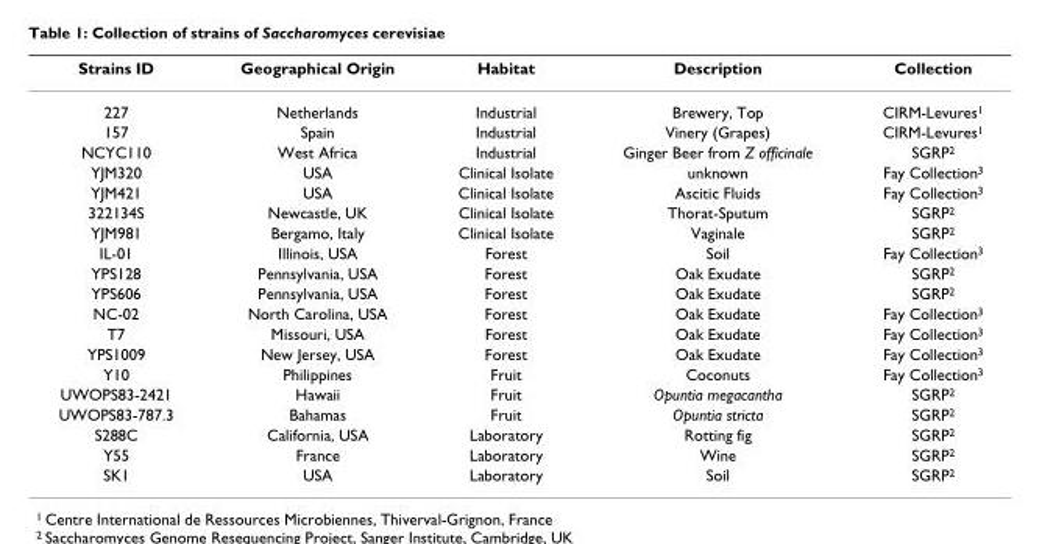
<table><thead><tr><td>Strains ID</td><td>Geographical Origin</td><td>Habitat</td><td>Description</td><td>Collection</td></tr></thead><tbody><tr><td>227</td><td>Netherlands</td><td>Industrial</td><td>Brewery, Top</td><td>CIRM-Levures<sup>1</sup></td></tr><tr><td>157</td><td>Spain</td><td>Industrial</td><td>Vinery (Grapes)</td><td>CIRM-Levures<sup>1</sup></td></tr><tr><td>NCYC110</td><td>West Africa</td><td>Industrial</td><td>Ginger Beer from Z officinale</td><td>SGRP<sup>2</sup></td></tr><tr><td>YJM320</td><td>USA</td><td>Clinical Isolate</td><td>unknown</td><td>Fay Collection<sup>3</sup></td></tr><tr><td>YJM421</td><td>USA</td><td>Clinical Isolate</td><td>Ascitic Fluids</td><td>Fay Collection<sup>3</sup></td></tr><tr><td>322134S</td><td>Newcastle, UK</td><td>Clinical Isolate</td><td>Thorat-Sputum</td><td>SGRP<sup>2</sup></td></tr><tr><td>YJM981</td><td>Bergamo, Italy</td><td>Clinical Isolate</td><td>Vaginale</td><td>SGRP<sup>2</sup></td></tr><tr><td>IL-01</td><td>Illinois, USA</td><td>Forest</td><td>Soil</td><td>Fay Collection<sup>3</sup></td></tr><tr><td>YPS128</td><td>Pennsylvania, USA</td><td>Forest</td><td>Oak Exudate</td><td>SGRP<sup>2</sup></td></tr><tr><td>YPS606</td><td>Pennsylvania, USA</td><td>Forest</td><td>Oak Exudate</td><td>SGRP<sup>2</sup></td></tr><tr><td>NC-02</td><td>North Carolina, USA</td><td>Forest</td><td>Oak Exudate</td><td>Fay Collection<sup>3</sup></td></tr><tr><td>T7</td><td>Missouri, USA</td><td>Forest</td><td>Oak Exudate</td><td>Fay Collection<sup>3</sup></td></tr><tr><td>YPS1009</td><td>New Jersey, USA</td><td>Forest</td><td>Oak Exudate</td><td>Fay Collection<sup>3</sup></td></tr><tr><td>Y10</td><td>Philippines</td><td>Fruit</td><td>Coconuts</td><td>Fay Collection<sup>3</sup></td></tr><tr><td>UWOPS83-2421</td><td>Hawaii</td><td>Fruit</td><td>Opuntia megacantha</td><td>SGRP<sup>2</sup></td></tr><tr><td>UWOPS83-787.3</td><td>Bahamas</td><td>Fruit</td><td>Opuntia stricta</td><td>SGRP<sup>2</sup></td></tr><tr><td>S288C</td><td>California, USA</td><td>Laboratory</td><td>Rotting fig</td><td>SGRP<sup>2</sup></td></tr><tr><td>Y55</td><td>France</td><td>Laboratory</td><td>Wine</td><td>SGRP<sup>2</sup></td></tr><tr><td>SK1</td><td>USA</td><td>Laboratory</td><td>Soil</td><td>SGRP<sup>2</sup></td></tr></tbody></table>